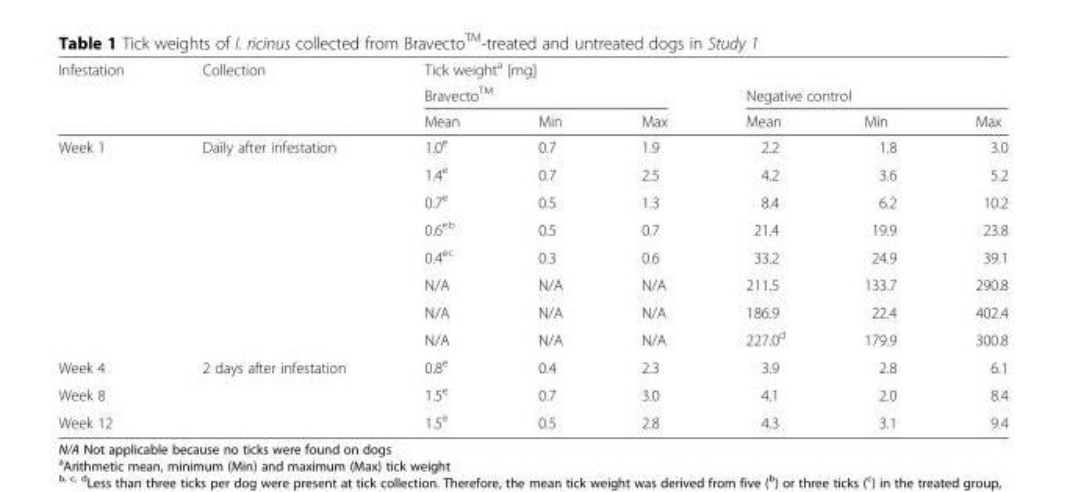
<table><thead><tr><td rowspan="3">Infestation</td><td rowspan="3">Collection</td><td colspan="6">Tick weight<sup>a</sup> [mg]</td></tr><tr><td colspan="3">Bravecto<sup>TM</sup></td><td colspan="3">Negative control</td></tr><tr><td>Mean</td><td>Min</td><td>Max</td><td>Mean</td><td>Min</td><td>Max</td></tr></thead><tbody><tr><td rowspan="8">Week 1</td><td rowspan="8">Daily after infestation</td><td>1.0<sup>e</sup></td><td>0.7</td><td>1.9</td><td>2.2</td><td>1.8</td><td>3.0</td></tr><tr><td>1.4<sup>e</sup></td><td>0.7</td><td>2.5</td><td>4.2</td><td>3.6</td><td>5.2</td></tr><tr><td>0.7<sup>e</sup></td><td>0.5</td><td>1.3</td><td>8.4</td><td>6.2</td><td>10.2</td></tr><tr><td>0.6<sup>eb</sup></td><td>0.5</td><td>0.7</td><td>21.4</td><td>19.9</td><td>23.8</td></tr><tr><td>0.4<sup>ec</sup></td><td>0.3</td><td>0.6</td><td>33.2</td><td>24.9</td><td>39.1</td></tr><tr><td>N/A</td><td>N/A</td><td>N/A</td><td>211.5</td><td>133.7</td><td>290.8</td></tr><tr><td>N/A</td><td>N/A</td><td>N/A</td><td>186.9</td><td>22.4</td><td>402.4</td></tr><tr><td>N/A</td><td>N/A</td><td>N/A</td><td>227.0<sup>d</sup></td><td>179.9</td><td>300.8</td></tr><tr><td>Week 4</td><td rowspan="3">2 days after infestation</td><td>0.8<sup>e</sup></td><td>0.4</td><td>2.3</td><td>3.9</td><td>2.8</td><td>6.1</td></tr><tr><td>Week 8</td><td>1.5<sup>e</sup></td><td>0.7</td><td>3.0</td><td>4.1</td><td>2.0</td><td>8.4</td></tr><tr><td>Week 12</td><td>1.5<sup>e</sup></td><td>0.5</td><td>2.8</td><td>4.3</td><td>3.1</td><td>9.4</td></tr></tbody></table>